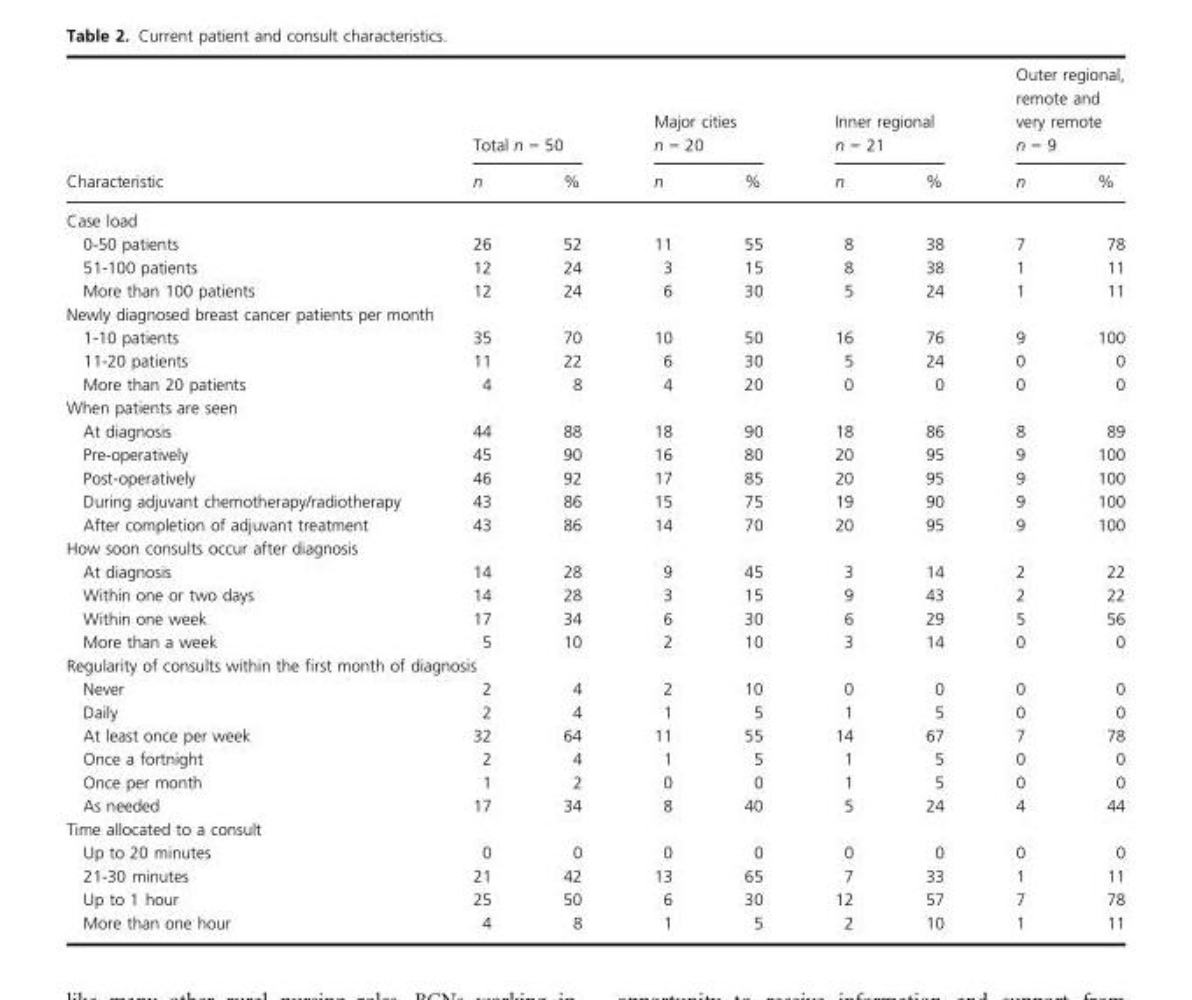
<table><thead><tr><td rowspan="2">Characteristic</td><td colspan="2">Total n = 50</td><td colspan="2">Major cities n = 20</td><td colspan="2">Inner regional n = 21</td><td colspan="2">Outer regional, remote and very remote n = 9</td></tr><tr><td>n</td><td>%</td><td>n</td><td>%</td><td>n</td><td>%</td><td>n</td><td>%</td></tr></thead><tbody><tr><td colspan="9">Case load</td></tr><tr><td>0-50 patients</td><td>26</td><td>52</td><td>11</td><td>55</td><td>8</td><td>38</td><td>7</td><td>78</td></tr><tr><td>51-100 patients</td><td>12</td><td>24</td><td>3</td><td>15</td><td>8</td><td>38</td><td>1</td><td>11</td></tr><tr><td>More than 100 patients</td><td>12</td><td>24</td><td>6</td><td>30</td><td>5</td><td>24</td><td>1</td><td>11</td></tr><tr><td colspan="9">Newly diagnosed breast cancer patients per month</td></tr><tr><td>1-10 patients</td><td>35</td><td>70</td><td>10</td><td>50</td><td>16</td><td>76</td><td>9</td><td>100</td></tr><tr><td>11-20 patients</td><td>11</td><td>22</td><td>6</td><td>30</td><td>5</td><td>24</td><td>0</td><td>0</td></tr><tr><td>More than 20 patients</td><td>4</td><td>8</td><td>4</td><td>20</td><td>0</td><td>0</td><td>0</td><td>0</td></tr><tr><td colspan="9">When patients are seen</td></tr><tr><td>At diagnosis</td><td>44</td><td>88</td><td>18</td><td>90</td><td>18</td><td>86</td><td>8</td><td>89</td></tr><tr><td>Pre-operatively</td><td>45</td><td>90</td><td>16</td><td>80</td><td>20</td><td>95</td><td>9</td><td>100</td></tr><tr><td>Post-operatively</td><td>46</td><td>92</td><td>17</td><td>85</td><td>20</td><td>95</td><td>9</td><td>100</td></tr><tr><td>During adjuvant chemotherapy/radiotherapy</td><td>43</td><td>86</td><td>15</td><td>75</td><td>19</td><td>90</td><td>9</td><td>100</td></tr><tr><td>After completion of adjuvant treatment</td><td>43</td><td>86</td><td>14</td><td>70</td><td>20</td><td>95</td><td>9</td><td>100</td></tr><tr><td colspan="9">How soon consults occur after diagnosis</td></tr><tr><td>At diagnosis</td><td>14</td><td>28</td><td>9</td><td>45</td><td>3</td><td>14</td><td>2</td><td>22</td></tr><tr><td>Within one or two days</td><td>14</td><td>28</td><td>3</td><td>15</td><td>9</td><td>43</td><td>2</td><td>22</td></tr><tr><td>Within one week</td><td>17</td><td>34</td><td>6</td><td>30</td><td>6</td><td>29</td><td>5</td><td>56</td></tr><tr><td>More than a week</td><td>5</td><td>10</td><td>2</td><td>10</td><td>3</td><td>14</td><td>0</td><td>0</td></tr><tr><td colspan="9">Regularity of consults within the first month of diagnosis</td></tr><tr><td>Never</td><td>2</td><td>4</td><td>2</td><td>10</td><td>0</td><td>0</td><td>0</td><td>0</td></tr><tr><td>Daily</td><td>2</td><td>4</td><td>1</td><td>5</td><td>1</td><td>5</td><td>0</td><td>0</td></tr><tr><td>At least once per week</td><td>32</td><td>64</td><td>11</td><td>55</td><td>14</td><td>67</td><td>7</td><td>78</td></tr><tr><td>Once a fortnight</td><td>2</td><td>4</td><td>1</td><td>5</td><td>1</td><td>5</td><td>0</td><td>0</td></tr><tr><td>Once per month</td><td>1</td><td>2</td><td>0</td><td>0</td><td>1</td><td>5</td><td>0</td><td>0</td></tr><tr><td>As needed</td><td>17</td><td>34</td><td>8</td><td>40</td><td>5</td><td>24</td><td>4</td><td>44</td></tr><tr><td colspan="9">Time allocated to a consult</td></tr><tr><td>Up to 20 minutes</td><td>0</td><td>0</td><td>0</td><td>0</td><td>0</td><td>0</td><td>0</td><td>0</td></tr><tr><td>21-30 minutes</td><td>21</td><td>42</td><td>13</td><td>65</td><td>7</td><td>33</td><td>1</td><td>11</td></tr><tr><td>Up to 1 hour</td><td>25</td><td>50</td><td>6</td><td>30</td><td>12</td><td>57</td><td>7</td><td>78</td></tr><tr><td>More than one hour</td><td>4</td><td>8</td><td>1</td><td>5</td><td>2</td><td>10</td><td>1</td><td>11</td></tr></tbody></table>